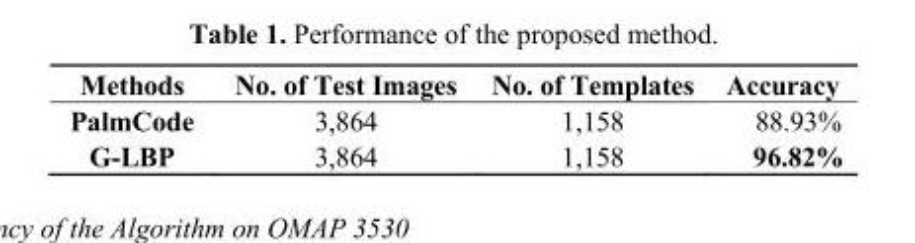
<table><thead><tr><td>Methods</td><td>No. of Test Images</td><td>No. of Templates</td><td>Accuracy</td></tr></thead><tbody><tr><td>PalmCode</td><td>3,864</td><td>1,158</td><td>88.93%</td></tr><tr><td>G-LBP</td><td>3,864</td><td>1,158</td><td>96.82%</td></tr></tbody></table>